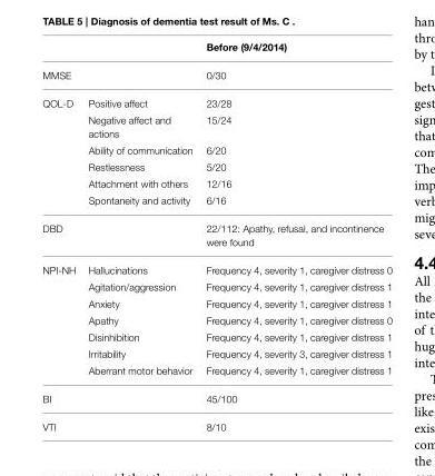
<table><thead><tr><td></td><td></td><td>Before (9/4/2014)</td></tr></thead><tbody><tr><td>MMSE</td><td></td><td>0/30</td></tr><tr><td rowspan="6">QOL-D</td><td>Positive affect</td><td>23/28</td></tr><tr><td>Negative affect and actions</td><td>15/24</td></tr><tr><td>Ability of communication</td><td>6/20</td></tr><tr><td>Restlessness</td><td>5/20</td></tr><tr><td>Attachment with others</td><td>12/16</td></tr><tr><td>Spontaneity and activity</td><td>6/16</td></tr><tr><td>DBD</td><td></td><td>22/112: Apathy, refusal, and incontinence were found</td></tr><tr><td rowspan="7">NPI-NH</td><td>Hallucinations</td><td>Frequency 4, severity 1, caregiver distress 0</td></tr><tr><td>Agitation/aggression</td><td>Frequency 4, severity 1, caregiver distress 1</td></tr><tr><td>Anxiety</td><td>Frequency 4, severity 1, caregiver distress 1</td></tr><tr><td>Apathy</td><td>Frequency 4, severity 1, caregiver distress 0</td></tr><tr><td>Disinhibition</td><td>Frequency 4, severity 1, caregiver distress 1</td></tr><tr><td>Irritability</td><td>Frequency 4, severity 3, caregiver distress 1</td></tr><tr><td>Aberrant motor behavior</td><td>Frequency 4, severity 1, caregiver distress 1</td></tr><tr><td>BI</td><td></td><td>45/100</td></tr><tr><td>VTI</td><td></td><td>8/10</td></tr></tbody></table>